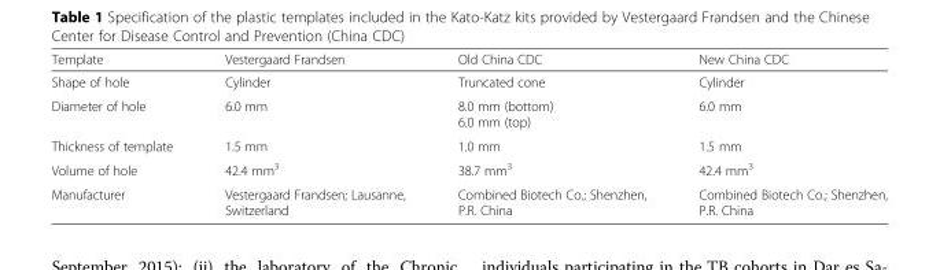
<table><thead><tr><td>Template</td><td>Vestergaard Frandsen</td><td>Old China CDC</td><td>New China CDC</td></tr></thead><tbody><tr><td>Shape of hole</td><td>Cylinder</td><td>Truncated cone</td><td>Cylinder</td></tr><tr><td>Diameter of hole</td><td>6.0 mm</td><td>8.0 mm (bottom) 6.0 mm (top)</td><td>6.0 mm</td></tr><tr><td>Thickness of template</td><td>1.5 mm</td><td>1.0 mm</td><td>1.5 mm</td></tr><tr><td>Volume of hole</td><td>42.4 mm<sup>3</sup></td><td>38.7 mm<sup>3</sup></td><td>42.4 mm<sup>3</sup></td></tr><tr><td>Manufacturer</td><td>Vestergaard Frandsen; Lausanne, Switzerland</td><td>Combined Biotech Co.; Shenzhen, P.R. China</td><td>Combined Biotech Co.; Shenzhen, P.R. China</td></tr></tbody></table>